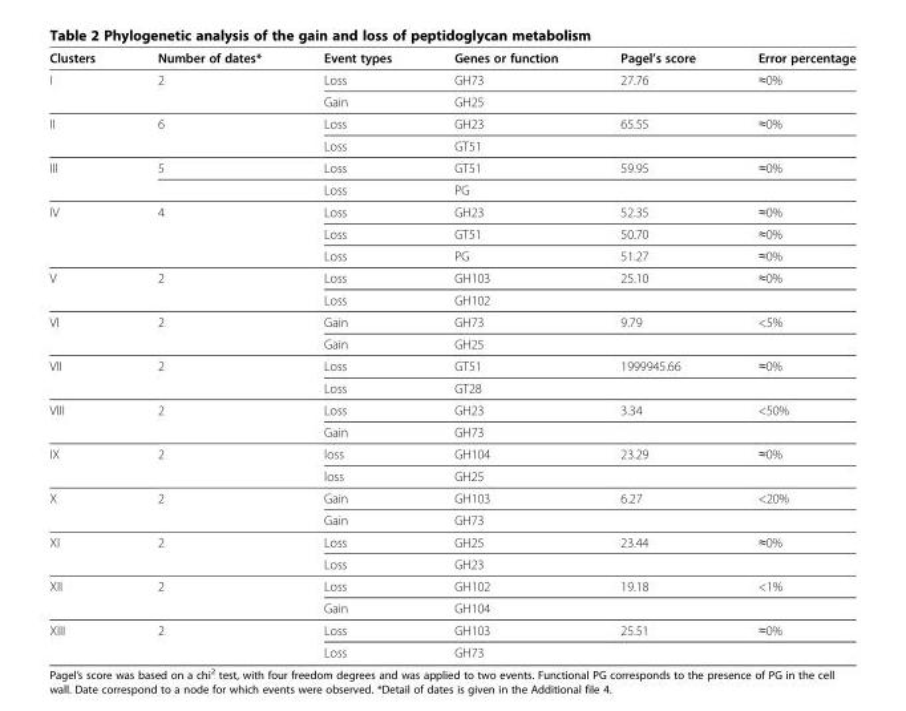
<table><thead><tr><td>Clusters</td><td>Number of dates*</td><td>Event types</td><td>Genes or function</td><td>Pagel’s score</td><td>Error percentage</td></tr></thead><tbody><tr><td rowspan="2">I</td><td rowspan="2">2</td><td>Loss</td><td>GH73</td><td>27.76</td><td>≈0%</td></tr><tr><td>Gain</td><td>GH25</td><td></td><td></td></tr><tr><td rowspan="2">II</td><td rowspan="2">6</td><td>Loss</td><td>GH23</td><td>65.55</td><td>≈0%</td></tr><tr><td>Loss</td><td>GT51</td><td></td><td></td></tr><tr><td rowspan="2">III</td><td>5</td><td>Loss</td><td>GT51</td><td>59.95</td><td>≈0%</td></tr><tr><td></td><td>Loss</td><td>PG</td><td></td><td></td></tr><tr><td rowspan="3">IV</td><td rowspan="3">4</td><td>Loss</td><td>GH23</td><td>52.35</td><td>≈0%</td></tr><tr><td>Loss</td><td>GT51</td><td>50.70</td><td>≈0%</td></tr><tr><td>Loss</td><td>PG</td><td>51.27</td><td>≈0%</td></tr><tr><td rowspan="2">V</td><td rowspan="2">2</td><td>Loss</td><td>GH103</td><td>25.10</td><td>≈0%</td></tr><tr><td>Loss</td><td>GH102</td><td></td><td></td></tr><tr><td rowspan="2">VI</td><td rowspan="2">2</td><td>Gain</td><td>GH73</td><td>9.79</td><td>&lt;5%</td></tr><tr><td>Gain</td><td>GH25</td><td></td><td></td></tr><tr><td rowspan="2">VII</td><td rowspan="2">2</td><td>Loss</td><td>GT51</td><td>1999945.66</td><td>≈0%</td></tr><tr><td>Loss</td><td>GT28</td><td></td><td></td></tr><tr><td rowspan="2">VIII</td><td rowspan="2">2</td><td>Loss</td><td>GH23</td><td>3.34</td><td>&lt;50%</td></tr><tr><td>Gain</td><td>GH73</td><td></td><td></td></tr><tr><td rowspan="2">IX</td><td rowspan="2">2</td><td>loss</td><td>GH104</td><td>23.29</td><td>≈0%</td></tr><tr><td>loss</td><td>GH25</td><td></td><td></td></tr><tr><td rowspan="2">X</td><td rowspan="2">2</td><td>Gain</td><td>GH103</td><td>6.27</td><td>&lt;20%</td></tr><tr><td>Gain</td><td>GH73</td><td></td><td></td></tr><tr><td rowspan="2">XI</td><td rowspan="2">2</td><td>Loss</td><td>GH25</td><td>23.44</td><td>≈0%</td></tr><tr><td>Loss</td><td>GH23</td><td></td><td></td></tr><tr><td rowspan="2">XII</td><td rowspan="2">2</td><td>Loss</td><td>GH102</td><td>19.18</td><td>&lt;1%</td></tr><tr><td>Gain</td><td>GH104</td><td></td><td></td></tr><tr><td rowspan="2">XIII</td><td rowspan="2">2</td><td>Loss</td><td>GH103</td><td>25.51</td><td>≈0%</td></tr><tr><td>Loss</td><td>GH73</td><td></td><td></td></tr></tbody></table>